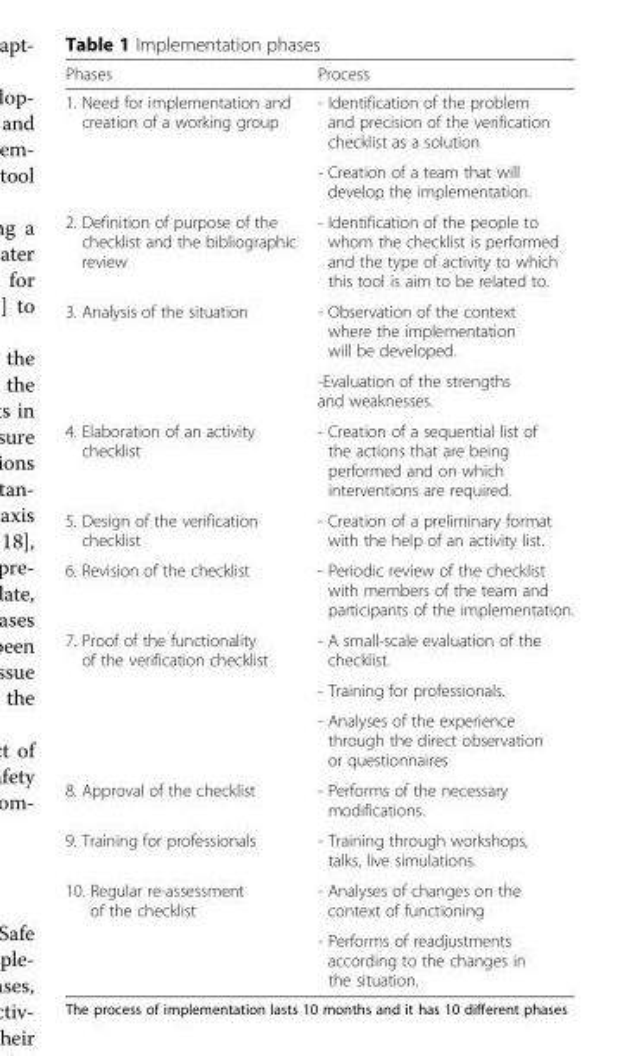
<table><thead><tr><td>Phases</td><td>Process</td></tr></thead><tbody><tr><td rowspan="2">1. Need for implementation and creation of a working group</td><td>- Identification of the problem and precision of the verification checklist as a solution</td></tr><tr><td>- Creation of a team that will develop the implementation.</td></tr><tr><td>2. Definition of purpose of the checklist and the bibliographic review</td><td>- Identification of the people to whom the checklist is performed and the type of activity to which this tool is aim to be related to.</td></tr><tr><td rowspan="2">3. Analysis of the situation</td><td>- Observation of the context where the implementation will be developed.</td></tr><tr><td>-Evaluation of the strengths and weaknesses.</td></tr><tr><td>4. Elaboration of an activity checklist</td><td>- Creation of a sequential list of the actions that are being performed and on which interventions are required.</td></tr><tr><td>5. Design of the verification checklist</td><td>- Creation of a preliminary format with the help of an activity list.</td></tr><tr><td>6. Revision of the checklist</td><td>- Periodic review of the checklist with members of the team and participants of the implementation.</td></tr><tr><td rowspan="3">7. Proof of the functionality of the verification checklist</td><td>- A small-scale evaluation of the checklist.</td></tr><tr><td>- Training for professionals.</td></tr><tr><td>- Analyses of the experience through the direct observation or questionnaires</td></tr><tr><td>8. Approval of the checklist</td><td>- Performs of the necessary modifications.</td></tr><tr><td>9. Training for professionals</td><td>- Training through workshops, talks, live simulations.</td></tr><tr><td rowspan="2">10. Regular re-assessment of the checklist</td><td>- Analyses of changes on the context of functioning</td></tr><tr><td>- Performs of readjustments according to the changes in the situation.</td></tr></tbody></table>